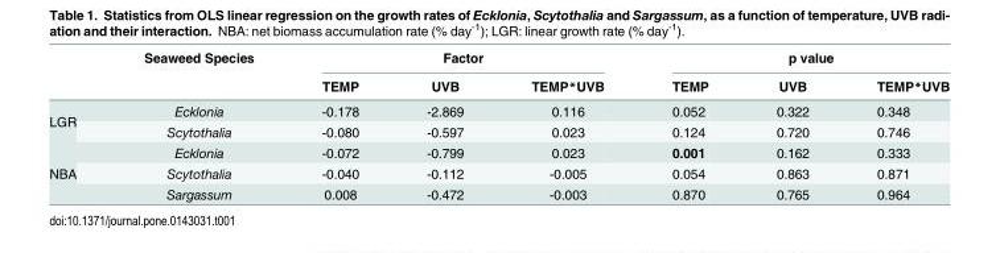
<table><thead><tr><td rowspan="2"></td><td rowspan="2">Seaweed Species</td><td colspan="3">Factor</td><td colspan="3">p value</td></tr><tr><td>TEMP</td><td>UVB</td><td>TEMP*UVB</td><td>TEMP</td><td>UVB</td><td>TEMP*UVB</td></tr></thead><tbody><tr><td rowspan="2">LGR</td><td>Ecklonia</td><td>-0.178</td><td>-2.869</td><td>0.116</td><td>0.052</td><td>0.322</td><td>0.348</td></tr><tr><td>Scytothalia</td><td>-0.080</td><td>-0.597</td><td>0.023</td><td>0.124</td><td>0.720</td><td>0.746</td></tr><tr><td rowspan="3">NBA</td><td>Ecklonia</td><td>-0.072</td><td>-0.799</td><td>0.023</td><td>0.001</td><td>0.162</td><td>0.333</td></tr><tr><td>Scytothalia</td><td>-0.040</td><td>-0.112</td><td>-0.005</td><td>0.054</td><td>0.863</td><td>0.871</td></tr><tr><td>Sargassum</td><td>0.008</td><td>-0.472</td><td>-0.003</td><td>0.870</td><td>0.765</td><td>0.964</td></tr></tbody></table>